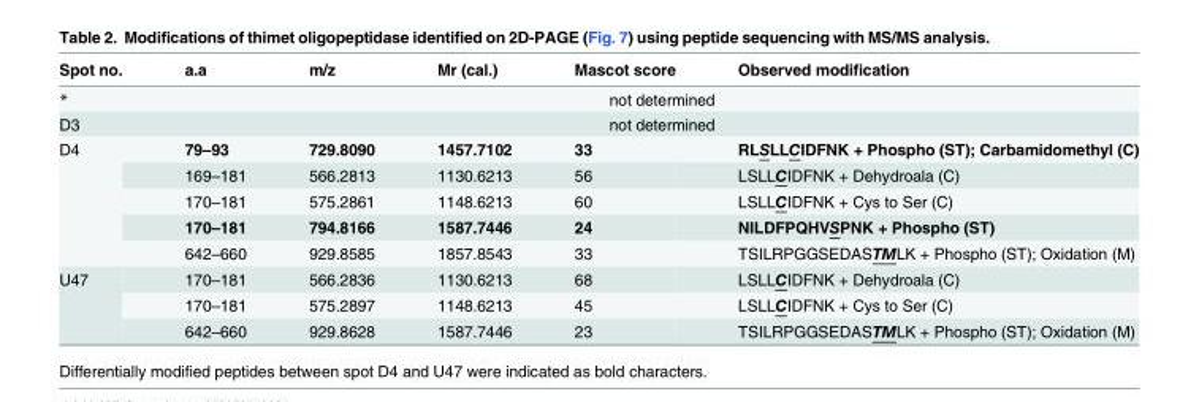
<table><thead><tr><td>Spot no.</td><td>a.a</td><td>m/z</td><td>Mr (cal.)</td><td>Mascot score</td><td>Observed modification</td></tr></thead><tbody><tr><td>*</td><td colspan="5">not determined</td></tr><tr><td>D3</td><td colspan="5">not determined</td></tr><tr><td rowspan="5">D4</td><td>79–93</td><td>729.8090</td><td>1457.7102</td><td>33</td><td>RLSLLCIDFNK + Phospho (ST); Carbamidomethyl (C)</td></tr><tr><td>169–181</td><td>566.2813</td><td>1130.6213</td><td>56</td><td>LSLLCIDFNK + Dehydroala (C)</td></tr><tr><td>170–181</td><td>575.2861</td><td>1148.6213</td><td>60</td><td>LSLLCIDFNK + Cys to Ser (C)</td></tr><tr><td>170–181</td><td>794.8166</td><td>1587.7446</td><td>24</td><td>NILDFPQHVSPNK + Phospho (ST)</td></tr><tr><td>642–660</td><td>929.8585</td><td>1857.8543</td><td>33</td><td>TSILRPGGSEDASTMLK + Phospho (ST); Oxidation (M)</td></tr><tr><td rowspan="3">U47</td><td>170–181</td><td>566.2836</td><td>1130.6213</td><td>68</td><td>LSLLCIDFNK + Dehydroala (C)</td></tr><tr><td>170–181</td><td>575.2897</td><td>1148.6213</td><td>45</td><td>LSLLCIDFNK + Cys to Ser (C)</td></tr><tr><td>642–660</td><td>929.8628</td><td>1587.7446</td><td>23</td><td>TSILRPGGSEDASTMLK + Phospho (ST); Oxidation (M)</td></tr></tbody></table>